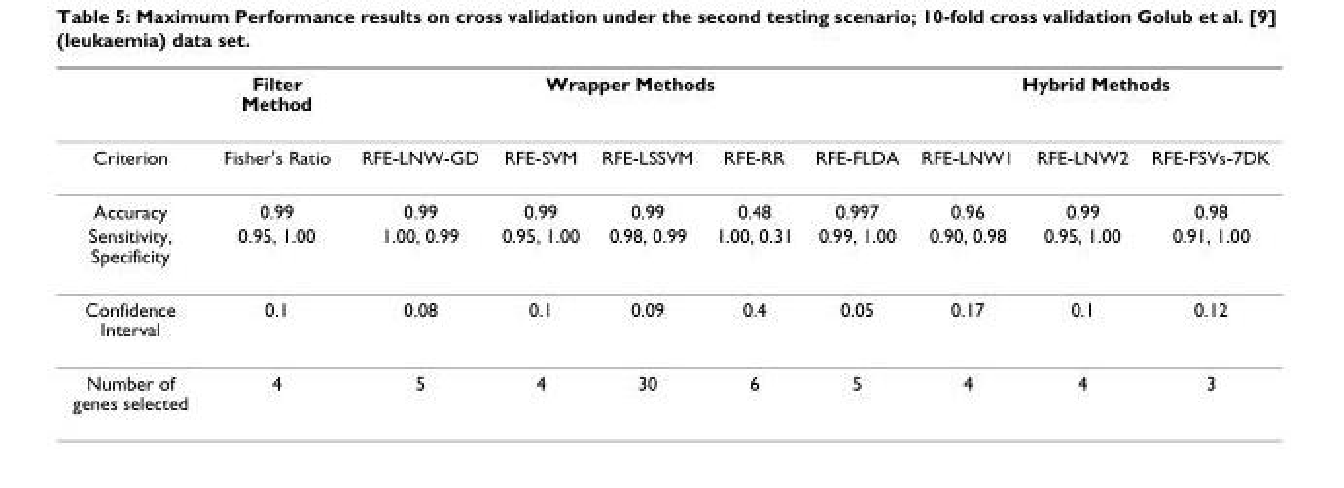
<table><thead><tr><td rowspan="2">Criterion</td><td rowspan="2">Filter Method Fisher&#x27;s Ratio</td><td colspan="5">Wrapper Methods</td><td colspan="3">Hybrid Methods</td></tr><tr><td>RFE-LNW-GD</td><td>RFE-SVM</td><td>RFE-LSSVM</td><td>RFE-RR</td><td>RFE-FLDA</td><td>RFE-LNW1</td><td>RFE-LNW2</td><td>RFE-FSVs-7DK</td></tr></thead><tbody><tr><td>Accuracy</td><td>0.99</td><td>0.99</td><td>0.99</td><td>0.99</td><td>0.48</td><td>0.997</td><td>0.96</td><td>0.99</td><td>0.98</td></tr><tr><td>Sensitivity, Specificity</td><td>0.95, 1.00</td><td>1.00, 0.99</td><td>0.95, 1.00</td><td>0.98, 0.99</td><td>1.00, 0.31</td><td>0.99, 1.00</td><td>0.90, 0.98</td><td>0.95, 1.00</td><td>0.91, 1.00</td></tr><tr><td>Confidence Interval</td><td>0.1</td><td>0.08</td><td>0.1</td><td>0.09</td><td>0.4</td><td>0.05</td><td>0.17</td><td>0.1</td><td>0.12</td></tr><tr><td>Number of genes selected</td><td>4</td><td>5</td><td>4</td><td>30</td><td>6</td><td>5</td><td>4</td><td>4</td><td>3</td></tr></tbody></table>